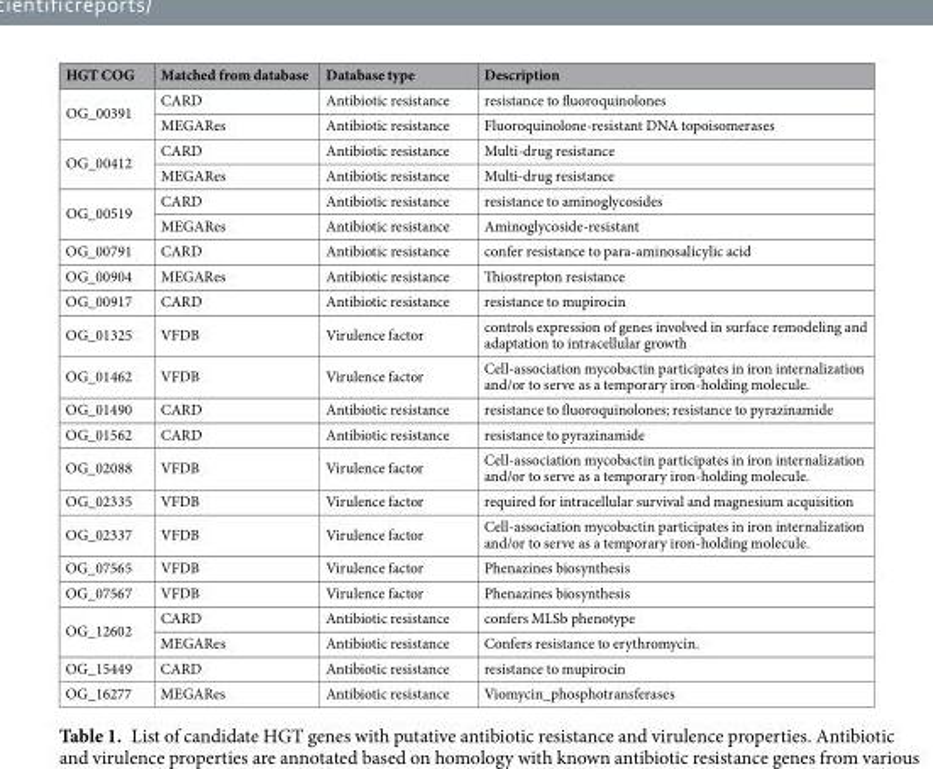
<table><thead><tr><td>HGT COG</td><td>Matched from database</td><td>Database type</td><td>Description</td></tr></thead><tbody><tr><td rowspan="2">OG_00391</td><td>CARD</td><td>Antibiotic resistance</td><td>resistance to fluoroquinolones</td></tr><tr><td>MEGARes</td><td>Antibiotic resistance</td><td>Fluoroquinolone-resistant DNA topoisomerases</td></tr><tr><td rowspan="2">OG_00412</td><td>CARD</td><td>Antibiotic resistance</td><td>Multi-drug resistance</td></tr><tr><td>MEGARes</td><td>Antibiotic resistance</td><td>Multi-drug resistance</td></tr><tr><td rowspan="2">OG_00519</td><td>CARD</td><td>Antibiotic resistance</td><td>resistance to aminoglycosides</td></tr><tr><td>MEGARes</td><td>Antibiotic resistance</td><td>Aminoglycoside-resistant</td></tr><tr><td>OG_00791</td><td>CARD</td><td>Antibiotic resistance</td><td>confer resistance to para-aminosalicylic acid</td></tr><tr><td>OG_00904</td><td>MEGARes</td><td>Antibiotic resistance</td><td>Thiostrepton resistance</td></tr><tr><td>OG_00917</td><td>CARD</td><td>Antibiotic resistance</td><td>resistance to mupirocin</td></tr><tr><td>OG_01325</td><td>VFDB</td><td>Virulence factor</td><td>controls expression of genes involved in surface remodeling and adaptation to intracellular growth</td></tr><tr><td>OG_01462</td><td>VFDB</td><td>Virulence factor</td><td>Cell-association mycobactin participates in iron internalization and/or to serve as a temporary iron-holding molecule.</td></tr><tr><td>OG_01490</td><td>CARD</td><td>Antibiotic resistance</td><td>resistance to fluoroquinolones; resistance to pyrazinamide</td></tr><tr><td>OG_01562</td><td>CARD</td><td>Antibiotic resistance</td><td>resistance to pyrazinamide</td></tr><tr><td>OG_02088</td><td>VFDB</td><td>Virulence factor</td><td>Cell-association mycobactin participates in iron internalization and/or to serve as a temporary iron-holding molecule.</td></tr><tr><td>OG_02335</td><td>VFDB</td><td>Virulence factor</td><td>required for intracellular survival and magnesium acquisition</td></tr><tr><td>OG_02337</td><td>VFDB</td><td>Virulence factor</td><td>Cell-association mycobactin participates in iron internalization and/or to serve as a temporary iron-holding molecule.</td></tr><tr><td>OG_07565</td><td>VFDB</td><td>Virulence factor</td><td>Phenazines biosynthesis</td></tr><tr><td>OG_07567</td><td>VFDB</td><td>Virulence factor</td><td>Phenazines biosynthesis</td></tr><tr><td rowspan="2">OG_12602</td><td>CARD</td><td>Antibiotic resistance</td><td>confers MLSb phenotype</td></tr><tr><td>MEGARes</td><td>Antibiotic resistance</td><td>Confers resistance to erythromycin.</td></tr><tr><td>OG_15449</td><td>CARD</td><td>Antibiotic resistance</td><td>resistance to mupirocin</td></tr><tr><td>OG_16277</td><td>MEGARes</td><td>Antibiotic resistance</td><td>Viomycin_phosphotransferases</td></tr></tbody></table>